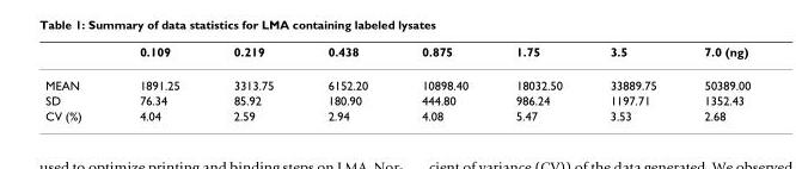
<table><thead><tr><td></td><td>0.109</td><td>0.219</td><td>0.438</td><td>0.875</td><td>1.75</td><td>3.5</td><td>7.0 (ng)</td></tr></thead><tbody><tr><td>MEAN</td><td>1891.25</td><td>3313.75</td><td>6152.20</td><td>10898.40</td><td>18032.50</td><td>33889.75</td><td>50389.00</td></tr><tr><td>SD</td><td>76.34</td><td>85.92</td><td>180.90</td><td>444.80</td><td>986.24</td><td>1197.71</td><td>1352.43</td></tr><tr><td>CV (%)</td><td>4.04</td><td>2.59</td><td>2.94</td><td>4.08</td><td>5.47</td><td>3.53</td><td>2.68</td></tr></tbody></table>